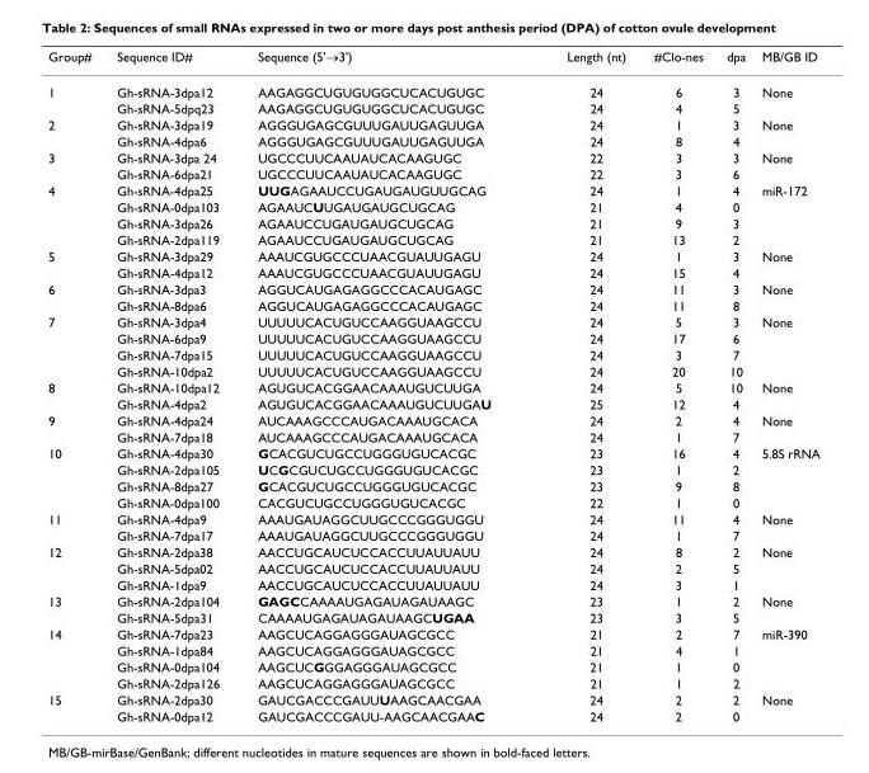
<table><thead><tr><td>Group#</td><td>Sequence ID#</td><td>Sequence (5&#x27;→3&#x27;)</td><td>Length (nt)</td><td>#Clo-nes</td><td>dpa</td><td>MB/GB ID</td></tr></thead><tbody><tr><td rowspan="2">1</td><td>Gh-sRNA-3dpa12</td><td>AAGAGGCUGUGUGGCUCACUGUGC</td><td>24</td><td>6</td><td>3</td><td>None</td></tr><tr><td>Gh-sRNA-5dpq23</td><td>AAGAGGCUGUGUGGCUCACUGUGC</td><td>24</td><td>4</td><td>5</td><td></td></tr><tr><td rowspan="2">2</td><td>Gh-sRNA-3dpa19</td><td>AGGGUGAGCGUUUGAUUGAGUUGA</td><td>24</td><td>1</td><td>3</td><td>None</td></tr><tr><td>Gh-sRNA-4dpa6</td><td>AGGGUGAGCGUUUGAUUGAGUUGA</td><td>24</td><td>8</td><td>4</td><td></td></tr><tr><td rowspan="2">3</td><td>Gh-sRNA-3dpa 24</td><td>UGCCCUUCAAUAUCACAAGUGC</td><td>22</td><td>3</td><td>3</td><td>None</td></tr><tr><td>Gh-sRNA-6dpa21</td><td>UGCCCUUCAAUAUCACAAGUGC</td><td>22</td><td>3</td><td>6</td><td></td></tr><tr><td rowspan="4">4</td><td>Gh-sRNA-4dpa25</td><td>UUGAGAAUCCUGAUGAUGUUGCAG</td><td>24</td><td>1</td><td>4</td><td>miR-172</td></tr><tr><td>Gh-sRNA-0dpa103</td><td>AGAAUCUUGAUGAUGCUGCAG</td><td>21</td><td>4</td><td>0</td><td></td></tr><tr><td>Gh-sRNA-3dpa26</td><td>AGAAUCCUGAUGAUGCUGCAG</td><td>21</td><td>9</td><td>3</td><td></td></tr><tr><td>Gh-sRNA-2dpa119</td><td>AGAAUCCUGAUGAUGCUGCAG</td><td>21</td><td>13</td><td>2</td><td></td></tr><tr><td rowspan="2">5</td><td>Gh-sRNA-3dpa29</td><td>AAAUCGUGCCCUAACGUAUUGAGU</td><td>24</td><td>1</td><td>3</td><td>None</td></tr><tr><td>Gh-sRNA-4dpa12</td><td>AAAUCGUGCCCUAACGUAUUGAGU</td><td>24</td><td>15</td><td>4</td><td></td></tr><tr><td rowspan="2">6</td><td>Gh-sRNA-3dpa3</td><td>AGGUCAUGAGAGGCCCACAUGAGC</td><td>24</td><td>11</td><td>3</td><td>None</td></tr><tr><td>Gh-sRNA-8dpa6</td><td>AGGUCAUGAGAGGCCCACAUGAGC</td><td>24</td><td>11</td><td>8</td><td></td></tr><tr><td rowspan="4">7</td><td>Gh-sRNA-3dpa4</td><td>UUUUUCACUGUCCAAGGUAAGCCU</td><td>24</td><td>5</td><td>3</td><td>None</td></tr><tr><td>Gh-sRNA-6dpa9</td><td>UUUUUCACUGUCCAAGGUAAGCCU</td><td>24</td><td>17</td><td>6</td><td></td></tr><tr><td>Gh-sRNA-7dpa15</td><td>UUUUUCACUGUCCAAGGUAAGCCU</td><td>24</td><td>3</td><td>7</td><td></td></tr><tr><td>Gh-sRNA-10dpa2</td><td>UUUUUCACUGUCCAAGGUAAGCCU</td><td>24</td><td>20</td><td>10</td><td></td></tr><tr><td rowspan="2">8</td><td>Gh-sRNA-10dpa12</td><td>AGUGUCACGGAACAAAUGUCUUGA</td><td>24</td><td>5</td><td>10</td><td>None</td></tr><tr><td>Gh-sRNA-4dpa2</td><td>AGUGUCACGGAACAAAUGUCUUGAU</td><td>25</td><td>12</td><td>4</td><td></td></tr><tr><td rowspan="2">9</td><td>Gh-sRNA-4dpa24</td><td>AUCAAAGCCCAUGACAAAUGCACA</td><td>24</td><td>2</td><td>4</td><td>None</td></tr><tr><td>Gh-sRNA-7dpa18</td><td>AUCAAAGCCCAUGACAAAUGCACA</td><td>24</td><td>1</td><td>7</td><td></td></tr><tr><td rowspan="4">10</td><td>Gh-sRNA-4dpa30</td><td>GCACGUCUGCCUGGGUGUCACGC</td><td>23</td><td>16</td><td>4</td><td>5.8S rRNA</td></tr><tr><td>Gh-sRNA-2dpa105</td><td>UCGCGUCUGCCUGGGUGUCACGC</td><td>23</td><td>1</td><td>2</td><td></td></tr><tr><td>Gh-sRNA-8dpa27</td><td>GCACGUCUGCCUGGGUGUCACGC</td><td>23</td><td>9</td><td>8</td><td></td></tr><tr><td>Gh-sRNA-0dpa100</td><td>CACGUCUGCCUGGGUGUCACGC</td><td>22</td><td>1</td><td>0</td><td></td></tr><tr><td rowspan="2">11</td><td>Gh-sRNA-4dpa9</td><td>AAAUGAUAGGCUUGCCCGGGUGGU</td><td>24</td><td>11</td><td>4</td><td>None</td></tr><tr><td>Gh-sRNA-7dpa17</td><td>AAAUGAUAGGCUUGCCCGGGUGGU</td><td>24</td><td>1</td><td>7</td><td></td></tr><tr><td rowspan="3">12</td><td>Gh-sRNA-2dpa38</td><td>AACCUGCAUCUCCACCUUAUUAUU</td><td>24</td><td>8</td><td>2</td><td>None</td></tr><tr><td>Gh-sRNA-5dpa02</td><td>AACCUGCAUCUCCACCUUAUUAUU</td><td>24</td><td>2</td><td>5</td><td></td></tr><tr><td>Gh-sRNA-1dpa9</td><td>AACCUGCAUCUCCACCUUAUUAUU</td><td>24</td><td>3</td><td>1</td><td></td></tr><tr><td rowspan="2">13</td><td>Gh-sRNA-2dpa104</td><td>GAGCCAAAAUGAGAUAGAUAAGC</td><td>23</td><td>1</td><td>2</td><td>None</td></tr><tr><td>Gh-sRNA-5dpa31</td><td>CAAAAUGAGAUAGAUAAGCUGAA</td><td>23</td><td>3</td><td>5</td><td></td></tr><tr><td rowspan="4">14</td><td>Gh-sRNA-7dpa23</td><td>AAGCUCAGGAGGGAUAGCGCC</td><td>21</td><td>2</td><td>7</td><td>miR-390</td></tr><tr><td>Gh-sRNA-1dpa84</td><td>AAGCUCAGGAGGGAUAGCGCC</td><td>21</td><td>4</td><td>1</td><td></td></tr><tr><td>Gh-sRNA-0dpa104</td><td>AAGCUCGGGAGGGAUAGCGCC</td><td>21</td><td>1</td><td>0</td><td></td></tr><tr><td>Gh-sRNA-2dpa126</td><td>AAGCUCAGGAGGGAUAGCGCC</td><td>21</td><td>1</td><td>2</td><td></td></tr><tr><td rowspan="2">15</td><td>Gh-sRNA-2dpa30</td><td>GAUCGACCCGAUUUAAGCAACGAA</td><td>24</td><td>2</td><td>2</td><td>None</td></tr><tr><td>Gh-sRNA-0dpa12</td><td>GAUCGACCCGAUU-AAGCAACGAAC</td><td>24</td><td>2</td><td>0</td><td></td></tr></tbody></table>